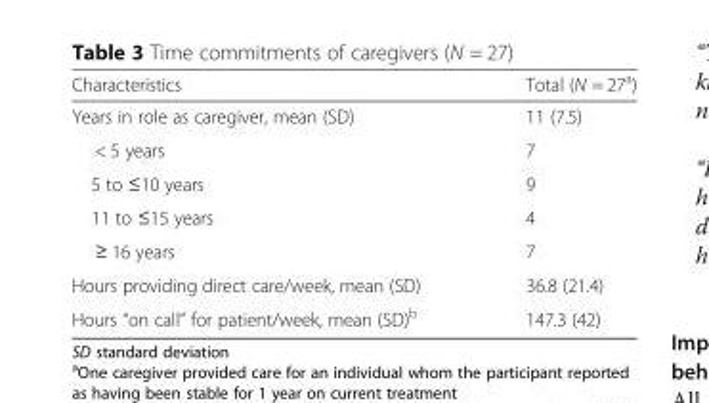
<table><thead><tr><td>Characteristics</td><td>Total (N = 27<sup>a</sup>)</td></tr></thead><tbody><tr><td>Years in role as caregiver, mean (SD)</td><td>11 (7.5)</td></tr><tr><td>&lt; 5 years</td><td>7</td></tr><tr><td>5 to ≤10 years</td><td>9</td></tr><tr><td>11 to ≤15 years</td><td>4</td></tr><tr><td>≥ 16 years</td><td>7</td></tr><tr><td>Hours providing direct care/week, mean (SD)</td><td>36.8 (21.4)</td></tr><tr><td>Hours “on call” for patient/week, mean (SD)<sup>b</sup></td><td>147.3 (42)</td></tr></tbody></table>